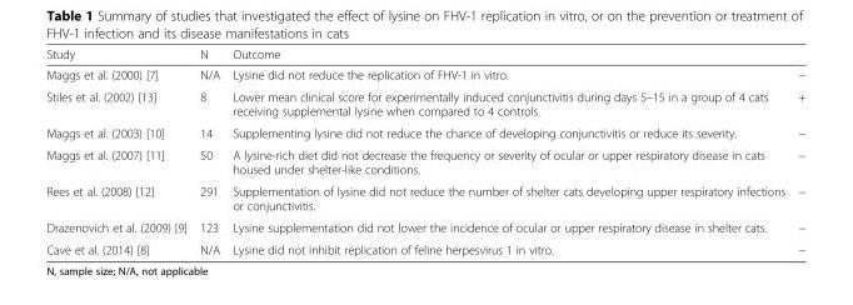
<table><thead><tr><td rowspan="2">Study Maggs et al. (2000) [7]</td><td rowspan="2">N N/A</td><td colspan="2">Outcome</td></tr><tr><td>Lysine did not reduce the replication of FHV-1 in vitro.</td><td>−</td></tr></thead><tbody><tr><td>Stiles et al. (2002) [13]</td><td>8</td><td>Lower mean clinical score for experimentally induced conjunctivitis during days 5–15 in a group of 4 cats receiving supplemental lysine when compared to 4 controls.</td><td>+</td></tr><tr><td>Maggs et al. (2003) [10]</td><td>14</td><td>Supplementing lysine did not reduce the chance of developing conjunctivitis or reduce its severity.</td><td>−</td></tr><tr><td>Maggs et al. (2007) [11]</td><td>50</td><td>A lysine-rich diet did not decrease the frequency or severity of ocular or upper respiratory disease in cats housed under shelter-like conditions.</td><td>−</td></tr><tr><td>Rees et al. (2008) [12]</td><td>291</td><td>Supplementation of lysine did not reduce the number of shelter cats developing upper respiratory infections or conjunctivitis.</td><td>−</td></tr><tr><td>Drazenovich et al. (2009) [9]</td><td>123</td><td>Lysine supplementation did not lower the incidence of ocular or upper respiratory disease in shelter cats.</td><td>−</td></tr><tr><td>Cave et al. (2014) [8]</td><td>N/A</td><td>Lysine did not inhibit replication of feline herpesvirus 1 in vitro.</td><td>−</td></tr></tbody></table>